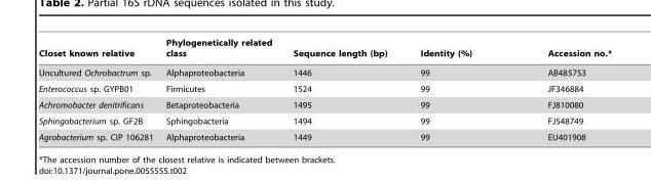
<table><thead><tr><td>Closet known relative</td><td>Phylogenetically related class</td><td>Sequence length (bp)</td><td>Identity (%)</td><td>Accession no.*</td></tr></thead><tbody><tr><td>Uncultured Ochrobactrum sp.</td><td>Alphaproteobacteria</td><td>1446</td><td>99</td><td>AB485753</td></tr><tr><td>Enterococcus sp. GYPB01</td><td>Firmicutes</td><td>1524</td><td>99</td><td>JF346884</td></tr><tr><td>Achromobacter denitrificans</td><td>Betaproteobacteria</td><td>1495</td><td>99</td><td>FJ810080</td></tr><tr><td>Sphingobacterium sp. GF2B</td><td>Sphingobacteria</td><td>1494</td><td>99</td><td>FJ548749</td></tr><tr><td>Agrobacterium sp. CIP 106281</td><td>Alphaproteobacteria</td><td>1449</td><td>99</td><td>EU401908</td></tr></tbody></table>